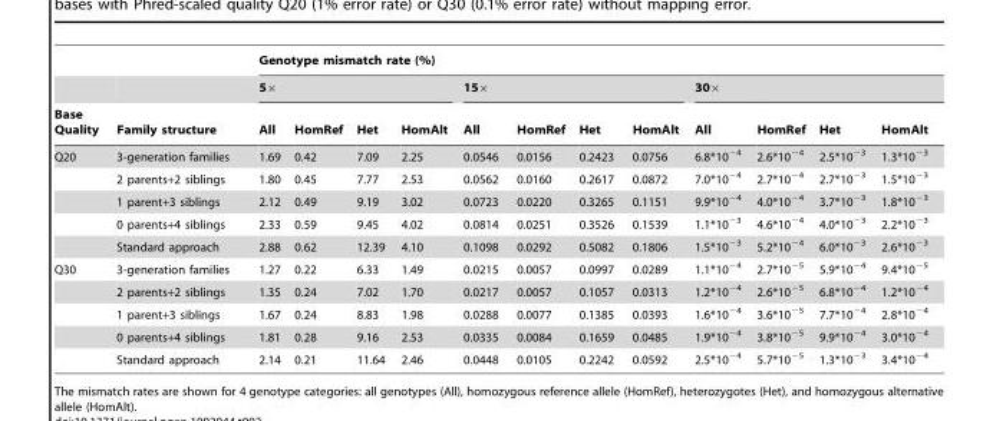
<table><thead><tr><td rowspan="3">Base Quality</td><td rowspan="3">Family structure</td><td colspan="12">Genotype mismatch rate (%)</td></tr><tr><td colspan="4">5×</td><td colspan="4">15×</td><td colspan="4">30×</td></tr><tr><td>All</td><td>HomRef</td><td>Het</td><td>HomAlt</td><td>All</td><td>HomRef</td><td>Het</td><td>HomAlt</td><td>All</td><td>HomRef</td><td>Het</td><td>HomAlt</td></tr></thead><tbody><tr><td rowspan="5">Q20</td><td>3-generation families</td><td>1.69</td><td>0.42</td><td>7.09</td><td>2.25</td><td>0.0546</td><td>0.0156</td><td>0.2423</td><td>0.0756</td><td>6.8*10<sup>−4</sup></td><td>2.6*10<sup>−4</sup></td><td>2.5*10<sup>−3</sup></td><td>1.3*10<sup>−3</sup></td></tr><tr><td>2 parents+2 siblings</td><td>1.80</td><td>0.45</td><td>7.77</td><td>2.53</td><td>0.0562</td><td>0.0160</td><td>0.2617</td><td>0.0872</td><td>7.0*10<sup>−4</sup></td><td>2.7*10<sup>−4</sup></td><td>2.7*10<sup>−3</sup></td><td>1.5*10<sup>−3</sup></td></tr><tr><td>1 parent+3 siblings</td><td>2.12</td><td>0.49</td><td>9.19</td><td>3.02</td><td>0.0723</td><td>0.0220</td><td>0.3265</td><td>0.1151</td><td>9.9*10<sup>−4</sup></td><td>4.0*10<sup>−4</sup></td><td>3.7*10<sup>−3</sup></td><td>1.8*10<sup>−3</sup></td></tr><tr><td>0 parents+4 siblings</td><td>2.33</td><td>0.59</td><td>9.45</td><td>4.02</td><td>0.0814</td><td>0.0251</td><td>0.3526</td><td>0.1539</td><td>1.1*10<sup>−3</sup></td><td>4.6*10<sup>−4</sup></td><td>4.0*10<sup>−3</sup></td><td>2.2*10<sup>−3</sup></td></tr><tr><td>Standard approach</td><td>2.88</td><td>0.62</td><td>12.39</td><td>4.10</td><td>0.1098</td><td>0.0292</td><td>0.5082</td><td>0.1806</td><td>1.5*10<sup>−3</sup></td><td>5.2*10<sup>−4</sup></td><td>6.0*10<sup>−3</sup></td><td>2.6*10<sup>−3</sup></td></tr><tr><td rowspan="5">Q30</td><td>3-generation families</td><td>1.27</td><td>0.22</td><td>6.33</td><td>1.49</td><td>0.0215</td><td>0.0057</td><td>0.0997</td><td>0.0289</td><td>1.1*10<sup>−4</sup></td><td>2.7*10<sup>−5</sup></td><td>5.9*10<sup>−4</sup></td><td>9.4*10<sup>−5</sup></td></tr><tr><td>2 parents+2 siblings</td><td>1.35</td><td>0.24</td><td>7.02</td><td>1.70</td><td>0.0217</td><td>0.0057</td><td>0.1057</td><td>0.0313</td><td>1.2*10<sup>−4</sup></td><td>2.6*10<sup>−5</sup></td><td>6.8*10<sup>−4</sup></td><td>1.2*10<sup>−4</sup></td></tr><tr><td>1 parent+3 siblings</td><td>1.67</td><td>0.24</td><td>8.83</td><td>1.98</td><td>0.0288</td><td>0.0077</td><td>0.1385</td><td>0.0393</td><td>1.6*10<sup>−4</sup></td><td>3.6*10<sup>−5</sup></td><td>7.7*10<sup>−4</sup></td><td>2.8*10<sup>−4</sup></td></tr><tr><td>0 parents+4 siblings</td><td>1.81</td><td>0.28</td><td>9.16</td><td>2.53</td><td>0.0335</td><td>0.0084</td><td>0.1659</td><td>0.0485</td><td>1.9*10<sup>−4</sup></td><td>3.8*10<sup>−5</sup></td><td>9.9*10<sup>−4</sup></td><td>3.0*10<sup>−4</sup></td></tr><tr><td>Standard approach</td><td>2.14</td><td>0.21</td><td>11.64</td><td>2.46</td><td>0.0448</td><td>0.0105</td><td>0.2242</td><td>0.0592</td><td>2.5*10<sup>−4</sup></td><td>5.7*10<sup>−5</sup></td><td>1.3*10<sup>−3</sup></td><td>3.4*10<sup>−4</sup></td></tr></tbody></table>